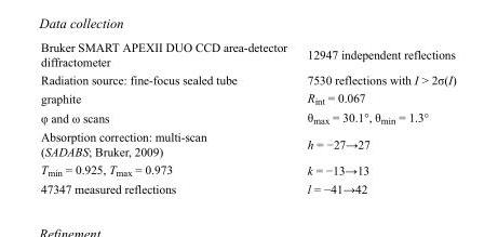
<table><tbody><tr><td>Bruker SMART APEXII DUO CCD area-detector diffractometer</td><td>12947 independent reflections</td></tr><tr><td>Radiation source: fine-focus sealed tube</td><td>7530 reflections with I &gt; 2σ(I)</td></tr><tr><td>graphite</td><td>R<sub>int</sub> = 0.067</td></tr><tr><td>φ and ω scans</td><td>θ<sub>max</sub> = 30.1°, θ<sub>min</sub> = 1.3°</td></tr><tr><td>Absorption correction: multi-scan (SADABS; Bruker, 2009)</td><td>h = −27→27</td></tr><tr><td>T<sub>min</sub> = 0.925, T<sub>max</sub> = 0.973</td><td>k = −13→13</td></tr><tr><td>47347 measured reflections</td><td>l = −41→42</td></tr></tbody></table>